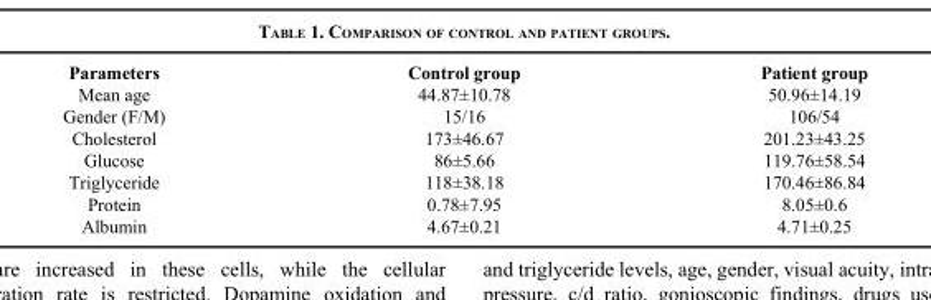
<table><thead><tr><td>Parameters</td><td>Control group</td><td>Patient group</td></tr></thead><tbody><tr><td>Mean age</td><td>44.87±10.78</td><td>50.96±14.19</td></tr><tr><td>Gender (F/M)</td><td>15/16</td><td>106/54</td></tr><tr><td>Cholesterol</td><td>173±46.67</td><td>201.23±43.25</td></tr><tr><td>Glucose</td><td>86±5.66</td><td>119.76±58.54</td></tr><tr><td>Triglyceride</td><td>118±38.18</td><td>170.46±86.84</td></tr><tr><td>Protein</td><td>0.78±7.95</td><td>8.05±0.6</td></tr><tr><td>Albumin</td><td>4.67±0.21</td><td>4.71±0.25</td></tr></tbody></table>